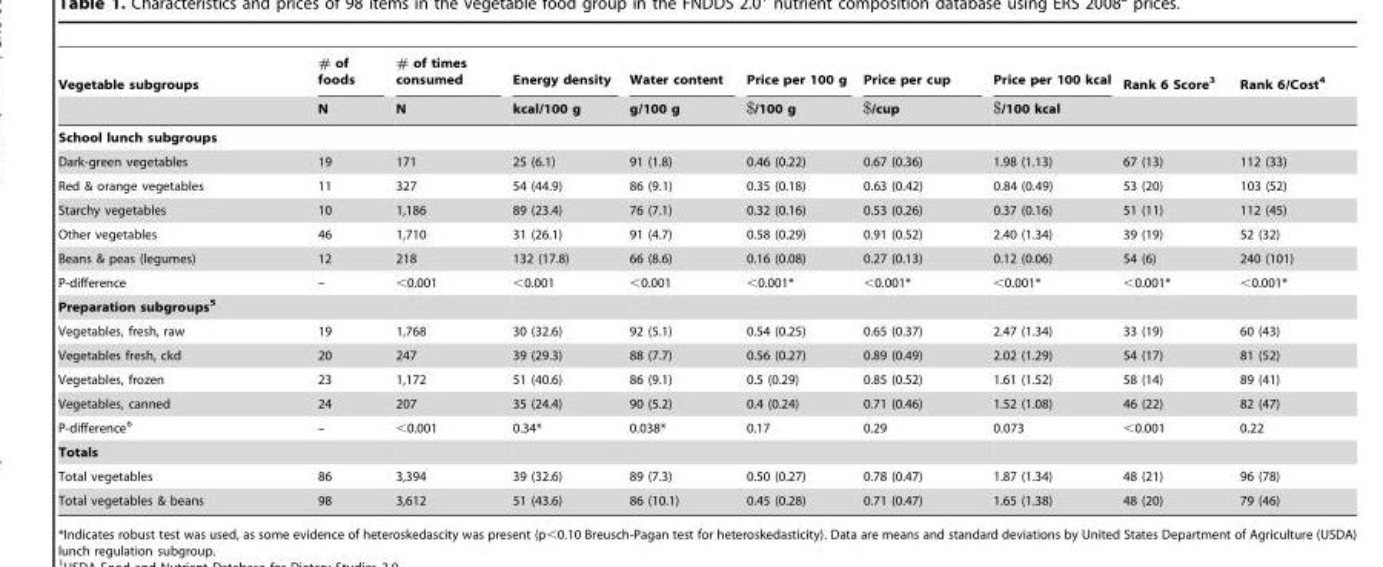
<table><thead><tr><td rowspan="2">Vegetable subgroups</td><td rowspan="2"># of foods N</td><td rowspan="2"># of times consumed N</td><td rowspan="2">Energy density kcal/100 g</td><td rowspan="2">Water content g/100 g</td><td rowspan="2">Price per 100 g $/100 g</td><td rowspan="2">Price per cup $/cup</td><td rowspan="2">Price per 100 kcal $/100 kcal</td><td rowspan="2">Rank 6 Score<sup>3</sup></td><td rowspan="2">Rank 6/Cost<sup>4</sup></td></tr><tr></tr></thead><tbody><tr><td colspan="10">School lunch subgroups</td></tr><tr><td>Dark-green vegetables</td><td>19</td><td>171</td><td>25 (6.1)</td><td>91 (1.8)</td><td>0.46 (0.22)</td><td>0.67 (0.36)</td><td>1.98 (1.13)</td><td>67 (13)</td><td>112 (33)</td></tr><tr><td>Red &amp; orange vegetables</td><td>11</td><td>327</td><td>54 (44.9)</td><td>86 (9.1)</td><td>0.35 (0.18)</td><td>0.63 (0.42)</td><td>0.84 (0.49)</td><td>53 (20)</td><td>103 (52)</td></tr><tr><td>Starchy vegetables</td><td>10</td><td>1,186</td><td>89 (23.4)</td><td>76 (7.1)</td><td>0.32 (0.16)</td><td>0.53 (0.26)</td><td>0.37 (0.16)</td><td>51 (11)</td><td>112 (45)</td></tr><tr><td>Other vegetables</td><td>46</td><td>1,710</td><td>31 (26.1)</td><td>91 (4.7)</td><td>0.58 (0.29)</td><td>0.91 (0.52)</td><td>2.40 (1.34)</td><td>39 (19)</td><td>52 (32)</td></tr><tr><td>Beans &amp; peas (legumes)</td><td>12</td><td>218</td><td>132 (17.8)</td><td>66 (8.6)</td><td>0.16 (0.08)</td><td>0.27 (0.13)</td><td>0.12 (0.06)</td><td>54 (6)</td><td>240 (101)</td></tr><tr><td>P-difference</td><td>–</td><td>&lt;0.001</td><td>&lt;0.001</td><td>&lt;0.001</td><td>&lt;0.001*</td><td>&lt;0.001*</td><td>&lt;0.001*</td><td>&lt;0.001*</td><td>&lt;0.001*</td></tr><tr><td colspan="10">Preparation subgroups5</td></tr><tr><td>Vegetables, fresh, raw</td><td>19</td><td>1,768</td><td>30 (32.6)</td><td>92 (5.1)</td><td>0.54 (0.25)</td><td>0.65 (0.37)</td><td>2.47 (1.34)</td><td>33 (19)</td><td>60 (43)</td></tr><tr><td>Vegetables fresh, ckd</td><td>20</td><td>247</td><td>39 (29.3)</td><td>88 (7.7)</td><td>0.56 (0.27)</td><td>0.89 (0.49)</td><td>2.02 (1.29)</td><td>54 (17)</td><td>81 (52)</td></tr><tr><td>Vegetables, frozen</td><td>23</td><td>1,172</td><td>51 (40.6)</td><td>86 (9.1)</td><td>0.5 (0.29)</td><td>0.85 (0.52)</td><td>1.61 (1.52)</td><td>58 (14)</td><td>89 (41)</td></tr><tr><td>Vegetables, canned</td><td>24</td><td>207</td><td>35 (24.4)</td><td>90 (5.2)</td><td>0.4 (0.24)</td><td>0.71 (0.46)</td><td>1.52 (1.08)</td><td>46 (22)</td><td>82 (47)</td></tr><tr><td>P-difference<sup>6</sup></td><td>–</td><td>&lt;0.001</td><td>0.34*</td><td>0.038*</td><td>0.17</td><td>0.29</td><td>0.073</td><td>&lt;0.001</td><td>0.22</td></tr><tr><td colspan="10">Totals</td></tr><tr><td>Total vegetables</td><td>86</td><td>3,394</td><td>39 (32.6)</td><td>89 (7.3)</td><td>0.50 (0.27)</td><td>0.78 (0.47)</td><td>1.87 (1.34)</td><td>48 (21)</td><td>96 (78)</td></tr><tr><td>Total vegetables &amp; beans</td><td>98</td><td>3,612</td><td>51 (43.6)</td><td>86 (10.1)</td><td>0.45 (0.28)</td><td>0.71 (0.47)</td><td>1.65 (1.38)</td><td>48 (20)</td><td>79 (46)</td></tr></tbody></table>